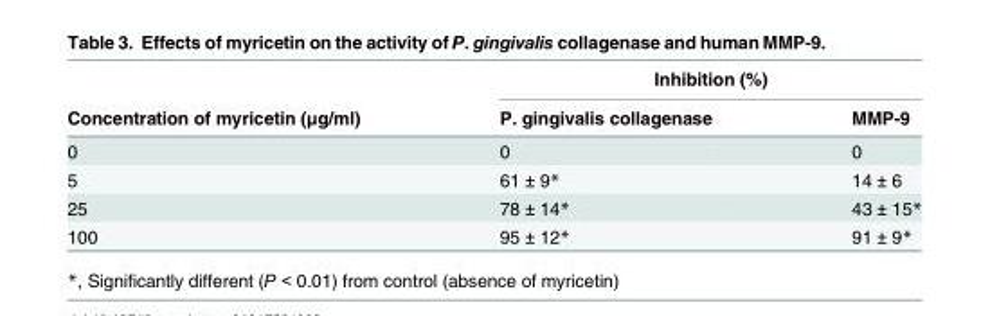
<table><thead><tr><td rowspan="2">Concentration of myricetin (μg/ml)</td><td colspan="2">Inhibition (%)</td></tr><tr><td>P. gingivalis collagenase</td><td>MMP-9</td></tr></thead><tbody><tr><td>0</td><td>0</td><td>0</td></tr><tr><td>5</td><td>61 ± 9*</td><td>14 ± 6</td></tr><tr><td>25</td><td>78 ± 14*</td><td>43 ± 15*</td></tr><tr><td>100</td><td>95 ± 12*</td><td>91 ± 9*</td></tr></tbody></table>